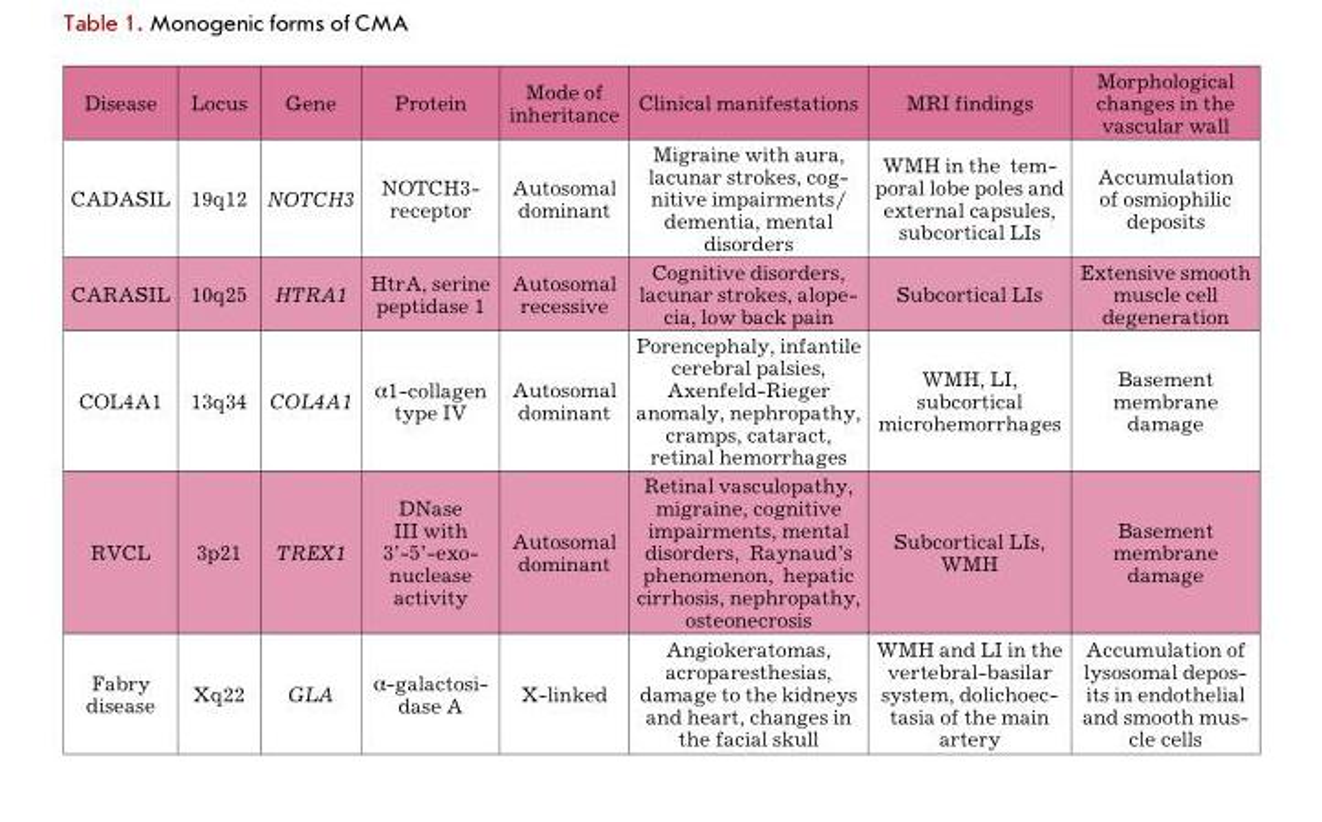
<table><thead><tr><td>Disease</td><td>Locus</td><td>Gene</td><td>Protein</td><td>Mode of inheritance</td><td>Clinical manifestations</td><td>MRI findings</td><td>Morphological changes in the vascular wall</td></tr></thead><tbody><tr><td>CADASIL</td><td>19q12</td><td>NOTCH3</td><td>NOTCH3- receptor</td><td>Autosomal dominant</td><td>Migraine with aura, lacunar strokes, cog- nitive impairments/ dementia, mental disorders</td><td>WMH in the tem- poral lobe poles and external capsules, subcortical LIs</td><td>Accumulation of osmiophilic deposits</td></tr><tr><td>CARASIL</td><td>10q25</td><td>HTRA1</td><td>HtrA, serine peptidase 1</td><td>Autosomal recessive</td><td>Cognitive disorders, lacunar strokes, alope- cia, low back pain</td><td>Subcortical LIs</td><td>Extensive smooth muscle cell degeneration</td></tr><tr><td>COL4A1</td><td>13q34</td><td>COL4A1</td><td>α1-collagen type IV</td><td>Autosomal dominant</td><td>Porencephaly, infantile cerebral palsies, Axenfeld-Rieger anomaly, nephropathy, cramps, cataract, retinal hemorrhages</td><td>WMH, LI, subcortical microhemorrhages</td><td>Basement membrane damage</td></tr><tr><td>RVCL</td><td>3p21</td><td>TREX1</td><td>DNase III with 3’-5’-exo- nuclease activity</td><td>Autosomal dominant</td><td>Retinal vasculopathy, migraine, cognitive impairments, mental disorders, Raynaud’s phenomenon, hepatic cirrhosis, nephropathy, osteonecrosis</td><td>Subcortical LIs, WMH</td><td>Basement membrane damage</td></tr><tr><td>Fabry disease</td><td>Xq22</td><td>GLA</td><td>α-galactosi- dase A</td><td>X-linked</td><td>Angiokeratomas, acroparesthesias, damage to the kidneys and heart, changes in the facial skull</td><td>WMH and LI in the vertebral-basilar system, dolichoec- tasia of the main artery</td><td>Accumulation of lysosomal depos- its in endothelial and smooth mus- cle cells</td></tr></tbody></table>